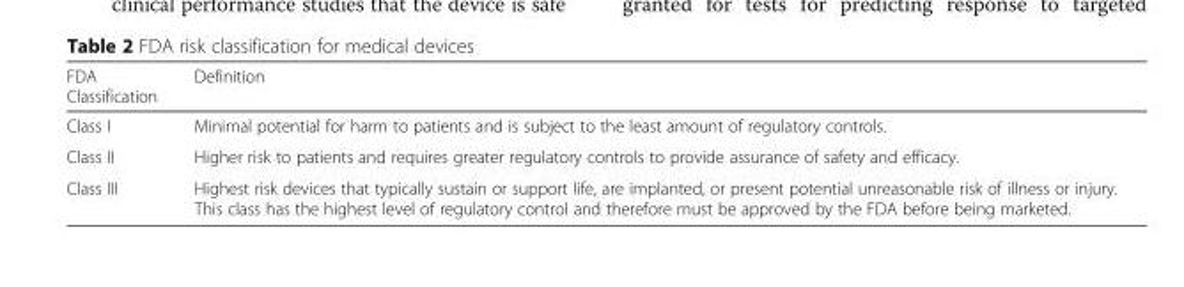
<table><thead><tr><td>FDA Classification</td><td>Definition</td></tr></thead><tbody><tr><td>Class I</td><td>Minimal potential for harm to patients and is subject to the least amount of regulatory controls.</td></tr><tr><td>Class II</td><td>Higher risk to patients and requires greater regulatory controls to provide assurance of safety and efficacy.</td></tr><tr><td>Class III</td><td>Highest risk devices that typically sustain or support life, are implanted, or present potential unreasonable risk of illness or injury. This class has the highest level of regulatory control and therefore must be approved by the FDA before being marketed.</td></tr></tbody></table>